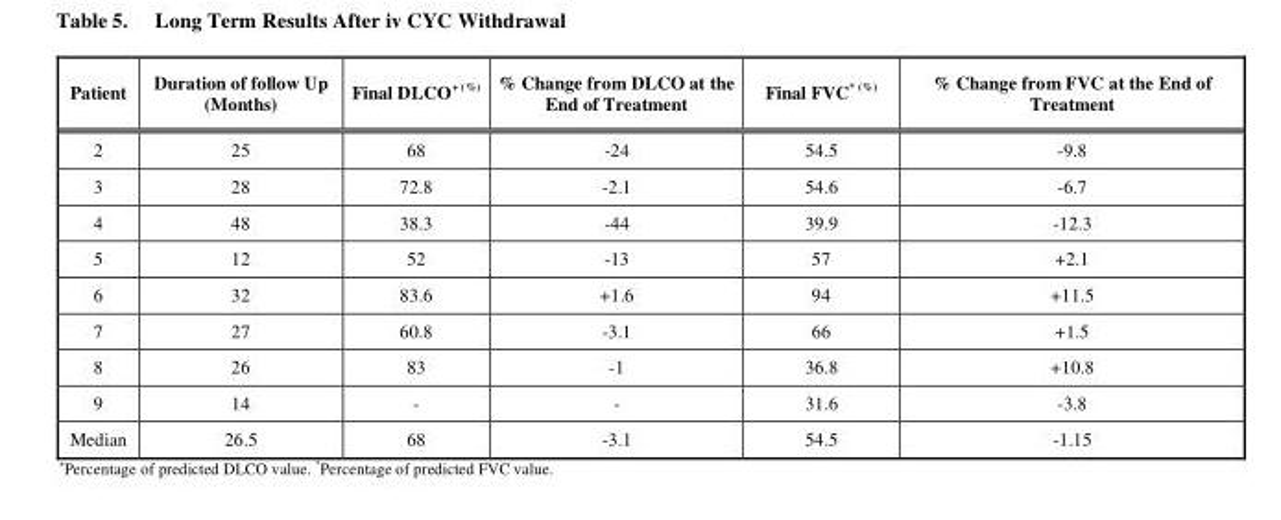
<table><thead><tr><td>Patient</td><td>Duration of follow Up (Months)</td><td>Final DLCO<sup>+ (%)</sup></td><td>% Change from DLCO at the End of Treatment</td><td>Final FVC<sup>* (%)</sup></td><td>% Change from FVC at the End of Treatment</td></tr></thead><tbody><tr><td>2</td><td>25</td><td>68</td><td>-24</td><td>54.5</td><td>-9.8</td></tr><tr><td>3</td><td>28</td><td>72.8</td><td>-2.1</td><td>54.6</td><td>-6.7</td></tr><tr><td>4</td><td>48</td><td>38.3</td><td>-44</td><td>39.9</td><td>-12.3</td></tr><tr><td>5</td><td>12</td><td>52</td><td>-13</td><td>57</td><td>+2.1</td></tr><tr><td>6</td><td>32</td><td>83.6</td><td>+1.6</td><td>94</td><td>+11.5</td></tr><tr><td>7</td><td>27</td><td>60.8</td><td>-3.1</td><td>66</td><td>+1.5</td></tr><tr><td>8</td><td>26</td><td>83</td><td>-1</td><td>36.8</td><td>+10.8</td></tr><tr><td>9</td><td>14</td><td>-</td><td>-</td><td>31.6</td><td>-3.8</td></tr><tr><td>Median</td><td>26.5</td><td>68</td><td>-3.1</td><td>54.5</td><td>-1.15</td></tr></tbody></table>